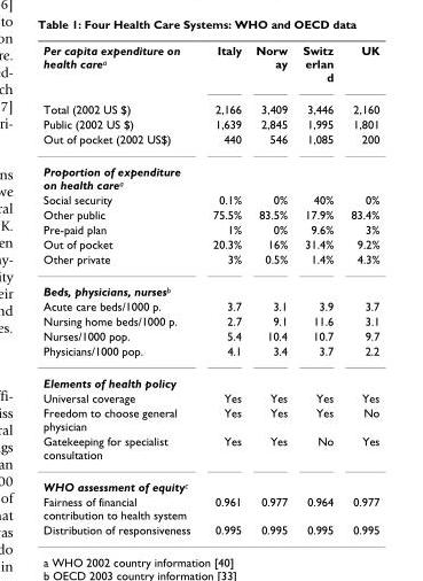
<table><tbody><tr><td>Per capita expenditure on health care<sup>a</sup></td><td>Italy</td><td>Norw ay</td><td>Switz erlan d</td><td>UK</td></tr><tr><td>Total (2002 US $)</td><td>2,166</td><td>3,409</td><td>3,446</td><td>2,160</td></tr><tr><td>Public (2002 US $)</td><td>1,639</td><td>2,845</td><td>1,995</td><td>1,801</td></tr><tr><td>Out of pocket (2002 US$)</td><td>440</td><td>546</td><td>1,085</td><td>200</td></tr><tr><td colspan="5">Proportion of expenditure on health care<sup>a</sup></td></tr><tr><td>Social security</td><td>0.1%</td><td>0%</td><td>40%</td><td>0%</td></tr><tr><td>Other public</td><td>75.5%</td><td>83.5%</td><td>17.9%</td><td>83.4%</td></tr><tr><td>Pre-paid plan</td><td>1%</td><td>0%</td><td>9.6%</td><td>3%</td></tr><tr><td>Out of pocket</td><td>20.3%</td><td>16%</td><td>31.4%</td><td>9.2%</td></tr><tr><td>Other private</td><td>3%</td><td>0.5%</td><td>1.4%</td><td>4.3%</td></tr><tr><td colspan="5">Beds, physicians, nurses<sup>b</sup></td></tr><tr><td>Acute care beds/1000 p.</td><td>3.7</td><td>3.1</td><td>3.9</td><td>3.7</td></tr><tr><td>Nursing home beds/1000 p.</td><td>2.7</td><td>9.1</td><td>11.6</td><td>3.1</td></tr><tr><td>Nurses/1000 pop.</td><td>5.4</td><td>10.4</td><td>10.7</td><td>9.7</td></tr><tr><td>Physicians/1000 pop.</td><td>4.1</td><td>3.4</td><td>3.7</td><td>2.2</td></tr><tr><td colspan="5">Elements of health policy</td></tr><tr><td>Universal coverage</td><td>Yes</td><td>Yes</td><td>Yes</td><td>Yes</td></tr><tr><td>Freedom to choose general physician</td><td>Yes</td><td>Yes</td><td>Yes</td><td>No</td></tr><tr><td>Gatekeeping for specialist consultation</td><td>Yes</td><td>Yes</td><td>No</td><td>Yes</td></tr><tr><td colspan="5">WHO assessment of equity<sup>c</sup></td></tr><tr><td>Fairness of financial contribution to health system</td><td>0.961</td><td>0.977</td><td>0.964</td><td>0.977</td></tr><tr><td>Distribution of responsiveness</td><td>0.995</td><td>0.995</td><td>0.995</td><td>0.995</td></tr></tbody></table>